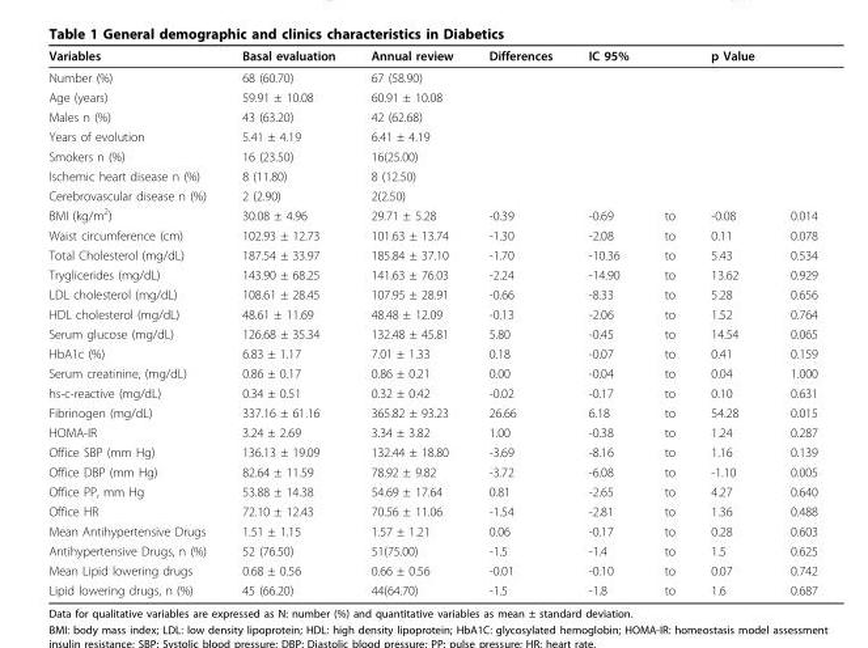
<table><thead><tr><td>Variables</td><td>Basal evaluation</td><td>Annual review</td><td>Differences</td><td>IC 95%</td><td></td><td>p Value</td><td></td></tr></thead><tbody><tr><td>Number (%)</td><td>68 (60.70)</td><td>67 (58.90)</td><td></td><td></td><td></td><td></td><td></td></tr><tr><td>Age (years)</td><td>59.91 ± 10.08</td><td>60.91 ± 10.08</td><td></td><td></td><td></td><td></td><td></td></tr><tr><td>Males n (%)</td><td>43 (63.20)</td><td>42 (62.68)</td><td></td><td></td><td></td><td></td><td></td></tr><tr><td>Years of evolution</td><td>5.41 ± 4.19</td><td>6.41 ± 4.19</td><td></td><td></td><td></td><td></td><td></td></tr><tr><td>Smokers n (%)</td><td>16 (23.50)</td><td>16(25.00)</td><td></td><td></td><td></td><td></td><td></td></tr><tr><td>Ischemic heart disease n (%)</td><td>8 (11.80)</td><td>8 (12.50)</td><td></td><td></td><td></td><td></td><td></td></tr><tr><td>Cerebrovascular disease n (%)</td><td>2 (2.90)</td><td>2(2.50)</td><td></td><td></td><td></td><td></td><td></td></tr><tr><td>BMI (kg/m<sup>2</sup>)</td><td>30.08 ± 4.96</td><td>29.71 ± 5.28</td><td>-0.39</td><td>-0.69</td><td>to</td><td>-0.08</td><td>0.014</td></tr><tr><td>Waist circumference (cm)</td><td>102.93 ± 12.73</td><td>101.63 ± 13.74</td><td>-1.30</td><td>-2.08</td><td>to</td><td>0.11</td><td>0.078</td></tr><tr><td>Total Cholesterol (mg/dL)</td><td>187.54 ± 33.97</td><td>185.84 ± 37.10</td><td>-1.70</td><td>-10.36</td><td>to</td><td>5.43</td><td>0.534</td></tr><tr><td>Tryglicerides (mg/dL)</td><td>143.90 ± 68.25</td><td>141.63 ± 76.03</td><td>-2.24</td><td>-14.90</td><td>to</td><td>13.62</td><td>0.929</td></tr><tr><td>LDL cholesterol (mg/dL)</td><td>108.61 ± 28.45</td><td>107.95 ± 28.91</td><td>-0.66</td><td>-8.33</td><td>to</td><td>5.28</td><td>0.656</td></tr><tr><td>HDL cholesterol (mg/dL)</td><td>48.61 ± 11.69</td><td>48.48 ± 12.09</td><td>-0.13</td><td>-2.06</td><td>to</td><td>1.52</td><td>0.764</td></tr><tr><td>Serum glucose (mg/dL)</td><td>126.68 ± 35.34</td><td>132.48 ± 45.81</td><td>5.80</td><td>-0.45</td><td>to</td><td>14.54</td><td>0.065</td></tr><tr><td>HbA1c (%)</td><td>6.83 ± 1.17</td><td>7.01 ± 1.33</td><td>0.18</td><td>-0.07</td><td>to</td><td>0.41</td><td>0.159</td></tr><tr><td>Serum creatinine, (mg/dL)</td><td>0.86 ± 0.17</td><td>0.86 ± 0.21</td><td>0.00</td><td>-0.04</td><td>to</td><td>0.04</td><td>1.000</td></tr><tr><td>hs-c-reactive (mg/dL)</td><td>0.34 ± 0.51</td><td>0.32 ± 0.42</td><td>-0.02</td><td>-0.17</td><td>to</td><td>0.10</td><td>0.631</td></tr><tr><td>Fibrinogen (mg/dL)</td><td>337.16 ± 61.16</td><td>365.82 ± 93.23</td><td>26.66</td><td>6.18</td><td>to</td><td>54.28</td><td>0.015</td></tr><tr><td>HOMA-IR</td><td>3.24 ± 2.69</td><td>3.34 ± 3.82</td><td>1.00</td><td>-0.38</td><td>to</td><td>1.24</td><td>0.287</td></tr><tr><td>Office SBP (mm Hg)</td><td>136.13 ± 19.09</td><td>132.44 ± 18.80</td><td>-3.69</td><td>-8.16</td><td>to</td><td>1.16</td><td>0.139</td></tr><tr><td>Office DBP (mm Hg)</td><td>82.64 ± 11.59</td><td>78.92 ± 9.82</td><td>-3.72</td><td>-6.08</td><td>to</td><td>-1.10</td><td>0.005</td></tr><tr><td>Office PP, mm Hg</td><td>53.88 ± 14.38</td><td>54.69 ± 17.64</td><td>0.81</td><td>-2.65</td><td>to</td><td>4.27</td><td>0.640</td></tr><tr><td>Office HR</td><td>72.10 ± 12.43</td><td>70.56 ± 11.06</td><td>-1.54</td><td>-2.81</td><td>to</td><td>1.36</td><td>0.488</td></tr><tr><td>Mean Antihypertensive Drugs</td><td>1.51 ± 1.15</td><td>1.57 ± 1.21</td><td>0.06</td><td>-0.17</td><td>to</td><td>0.28</td><td>0.603</td></tr><tr><td>Antihypertensive Drugs, n (%)</td><td>52 (76.50)</td><td>51(75.00)</td><td>-1.5</td><td>-1.4</td><td>to</td><td>1.5</td><td>0.625</td></tr><tr><td>Mean Lipid lowering drugs</td><td>0.68 ± 0.56</td><td>0.66 ± 0.56</td><td>-0.01</td><td>-0.10</td><td>to</td><td>0.07</td><td>0.742</td></tr><tr><td>Lipid lowering drugs, n (%)</td><td>45 (66.20)</td><td>44(64.70)</td><td>-1.5</td><td>-1.8</td><td>to</td><td>1.6</td><td>0.687</td></tr></tbody></table>